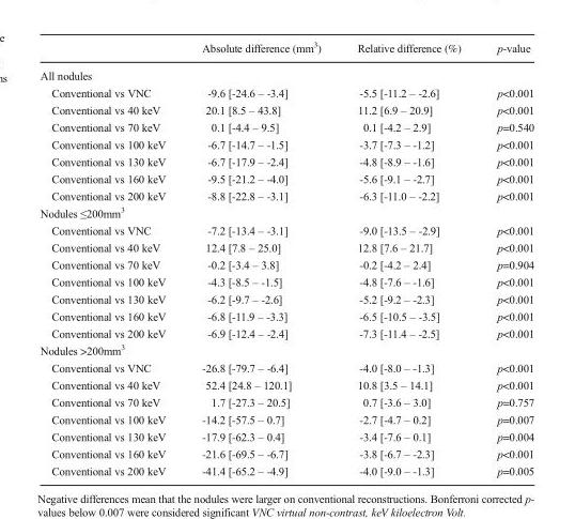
<table><thead><tr><td></td><td>Absolute difference (mm<sup>3</sup>)</td><td>Relative difference (%)</td><td>p-value</td></tr></thead><tbody><tr><td colspan="4">All nodules</td></tr><tr><td>Conventional vs VNC</td><td>-9.6 [-24.6 – -3.4]</td><td>-5.5 [-11.2 – -2.6]</td><td>p&lt;0.001</td></tr><tr><td>Conventional vs 40 keV</td><td>20.1 [8.5 – 43.8]</td><td>11.2 [6.9 – 20.9]</td><td>p&lt;0.001</td></tr><tr><td>Conventional vs 70 keV</td><td>0.1 [-4.4 – 9.5]</td><td>0.1 [-4.2 – 2.9]</td><td>p=0.540</td></tr><tr><td>Conventional vs 100 keV</td><td>-6.7 [-14.7 – -1.5]</td><td>-3.7 [-7.3 – -1.2]</td><td>p&lt;0.001</td></tr><tr><td>Conventional vs 130 keV</td><td>-6.7 [-17.9 – -2.4]</td><td>-4.8 [-8.9 – -1.6]</td><td>p&lt;0.001</td></tr><tr><td>Conventional vs 160 keV</td><td>-9.5 [-21.2 – -4.0]</td><td>-5.6 [-9.1 – -2.7]</td><td>p&lt;0.001</td></tr><tr><td>Conventional vs 200 keV</td><td>-8.8 [-22.8 – -3.1]</td><td>-6.3 [-11.0 – -2.2]</td><td>p&lt;0.001</td></tr><tr><td colspan="4">Nodules ≤200mm<sup>3</sup></td></tr><tr><td>Conventional vs VNC</td><td>-7.2 [-13.4 – -3.1]</td><td>-9.0 [-13.5 – -2.9]</td><td>p&lt;0.001</td></tr><tr><td>Conventional vs 40 keV</td><td>12.4 [7.8 – 25.0]</td><td>12.8 [7.6 – 21.7]</td><td>p&lt;0.001</td></tr><tr><td>Conventional vs 70 keV</td><td>-0.2 [-3.4 – 3.8]</td><td>-0.2 [-4.2 – 2.4]</td><td>p=0.904</td></tr><tr><td>Conventional vs 100 keV</td><td>-4.3 [-8.5 – -1.5]</td><td>-4.8 [-7.6 – -1.6]</td><td>p&lt;0.001</td></tr><tr><td>Conventional vs 130 keV</td><td>-6.2 [-9.7 – -2.6]</td><td>-5.2 [-9.2 – -2.3]</td><td>p&lt;0.001</td></tr><tr><td>Conventional vs 160 keV</td><td>-6.8 [-11.9 – -3.3]</td><td>-6.5 [-10.5 – -3.5]</td><td>p&lt;0.001</td></tr><tr><td>Conventional vs 200 keV</td><td>-6.9 [-12.4 – -2.4]</td><td>-7.3 [-11.4 – -2.5]</td><td>p&lt;0.001</td></tr><tr><td colspan="4">Nodules &gt;200mm<sup>3</sup></td></tr><tr><td>Conventional vs VNC</td><td>-26.8 [-79.7 – -6.4]</td><td>-4.0 [-8.0 – -1.3]</td><td>p&lt;0.001</td></tr><tr><td>Conventional vs 40 keV</td><td>52.4 [24.8 – 120.1]</td><td>10.8 [3.5 – 14.1]</td><td>p&lt;0.001</td></tr><tr><td>Conventional vs 70 keV</td><td>1.7 [-27.3 – 20.5]</td><td>0.7 [-3.6 – 3.0]</td><td>p=0.757</td></tr><tr><td>Conventional vs 100 keV</td><td>-14.2 [-57.5 – 0.7]</td><td>-2.7 [-4.7 – 0.2]</td><td>p=0.007</td></tr><tr><td>Conventional vs 130 keV</td><td>-17.9 [-62.3 – 0.4]</td><td>-3.4 [-7.6 – 0.1]</td><td>p=0.004</td></tr><tr><td>Conventional vs 160 keV</td><td>-21.6 [-69.5 – -6.7]</td><td>-3.8 [-6.7 – -2.3]</td><td>p&lt;0.001</td></tr><tr><td>Conventional vs 200 keV</td><td>-41.4 [-65.2 – -4.9]</td><td>-4.0 [-9.0 – -1.3]</td><td>p=0.005</td></tr></tbody></table>